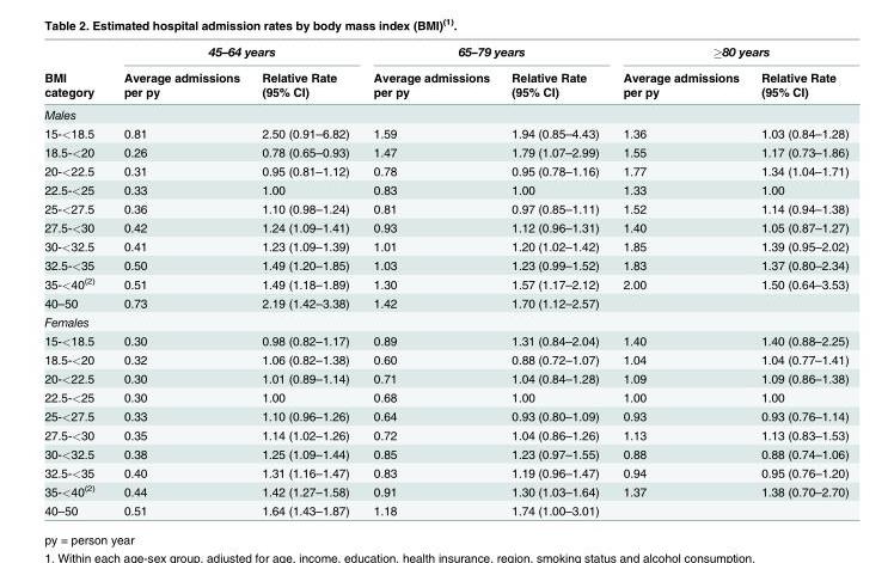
<table><thead><tr><td rowspan="2">BMI category</td><td colspan="2">45–64 years</td><td colspan="2">65–79 years</td><td colspan="2">≥80 years</td></tr><tr><td>Average admissions per py</td><td>Relative Rate (95% CI)</td><td>Average admissions per py</td><td>Relative Rate (95% CI)</td><td>Average admissions per py</td><td>Relative Rate (95% CI)</td></tr></thead><tbody><tr><td colspan="7">Males</td></tr><tr><td>15-&lt;18.5</td><td>0.81</td><td>2.50 (0.91–6.82)</td><td>1.59</td><td>1.94 (0.85–4.43)</td><td>1.36</td><td>1.03 (0.84–1.28)</td></tr><tr><td>18.5-&lt;20</td><td>0.26</td><td>0.78 (0.65–0.93)</td><td>1.47</td><td>1.79 (1.07–2.99)</td><td>1.55</td><td>1.17 (0.73–1.86)</td></tr><tr><td>20-&lt;22.5</td><td>0.31</td><td>0.95 (0.81–1.12)</td><td>0.78</td><td>0.95 (0.78–1.16)</td><td>1.77</td><td>1.34 (1.04–1.71)</td></tr><tr><td>22.5-&lt;25</td><td>0.33</td><td>1.00</td><td>0.83</td><td>1.00</td><td>1.33</td><td>1.00</td></tr><tr><td>25-&lt;27.5</td><td>0.36</td><td>1.10 (0.98–1.24)</td><td>0.81</td><td>0.97 (0.85–1.11)</td><td>1.52</td><td>1.14 (0.94–1.38)</td></tr><tr><td>27.5-&lt;30</td><td>0.42</td><td>1.24 (1.09–1.41)</td><td>0.93</td><td>1.12 (0.96–1.31)</td><td>1.40</td><td>1.05 (0.87–1.27)</td></tr><tr><td>30-&lt;32.5</td><td>0.41</td><td>1.23 (1.09–1.39)</td><td>1.01</td><td>1.20 (1.02–1.42)</td><td>1.85</td><td>1.39 (0.95–2.02)</td></tr><tr><td>32.5-&lt;35</td><td>0.50</td><td>1.49 (1.20–1.85)</td><td>1.03</td><td>1.23 (0.99–1.52)</td><td>1.83</td><td>1.37 (0.80–2.34)</td></tr><tr><td>35-&lt;40<sup>(2)</sup></td><td>0.51</td><td>1.49 (1.18–1.89)</td><td>1.30</td><td>1.57 (1.17–2.12)</td><td>2.00</td><td>1.50 (0.64–3.53)</td></tr><tr><td>40–50</td><td>0.73</td><td>2.19 (1.42–3.38)</td><td>1.42</td><td>1.70 (1.12–2.57)</td><td></td><td></td></tr><tr><td colspan="7">Females</td></tr><tr><td>15-&lt;18.5</td><td>0.30</td><td>0.98 (0.82–1.17)</td><td>0.89</td><td>1.31 (0.84–2.04)</td><td>1.40</td><td>1.40 (0.88–2.25)</td></tr><tr><td>18.5-&lt;20</td><td>0.32</td><td>1.06 (0.82–1.38)</td><td>0.60</td><td>0.88 (0.72–1.07)</td><td>1.04</td><td>1.04 (0.77–1.41)</td></tr><tr><td>20-&lt;22.5</td><td>0.30</td><td>1.01 (0.89–1.14)</td><td>0.71</td><td>1.04 (0.84–1.28)</td><td>1.09</td><td>1.09 (0.86–1.38)</td></tr><tr><td>22.5-&lt;25</td><td>0.30</td><td>1.00</td><td>0.68</td><td>1.00</td><td>1.00</td><td>1.00</td></tr><tr><td>25-&lt;27.5</td><td>0.33</td><td>1.10 (0.96–1.26)</td><td>0.64</td><td>0.93 (0.80–1.09)</td><td>0.93</td><td>0.93 (0.76–1.14)</td></tr><tr><td>27.5-&lt;30</td><td>0.35</td><td>1.14 (1.02–1.26)</td><td>0.72</td><td>1.04 (0.86–1.26)</td><td>1.13</td><td>1.13 (0.83–1.53)</td></tr><tr><td>30-&lt;32.5</td><td>0.38</td><td>1.25 (1.09–1.44)</td><td>0.85</td><td>1.23 (0.97–1.55)</td><td>0.88</td><td>0.88 (0.74–1.06)</td></tr><tr><td>32.5-&lt;35</td><td>0.40</td><td>1.31 (1.16–1.47)</td><td>0.83</td><td>1.19 (0.96–1.47)</td><td>0.94</td><td>0.95 (0.76–1.20)</td></tr><tr><td>35-&lt;40<sup>(2)</sup></td><td>0.44</td><td>1.42 (1.27–1.58)</td><td>0.91</td><td>1.30 (1.03–1.64)</td><td>1.37</td><td>1.38 (0.70–2.70)</td></tr><tr><td>40–50</td><td>0.51</td><td>1.64 (1.43–1.87)</td><td>1.18</td><td>1.74 (1.00–3.01)</td><td></td><td></td></tr></tbody></table>